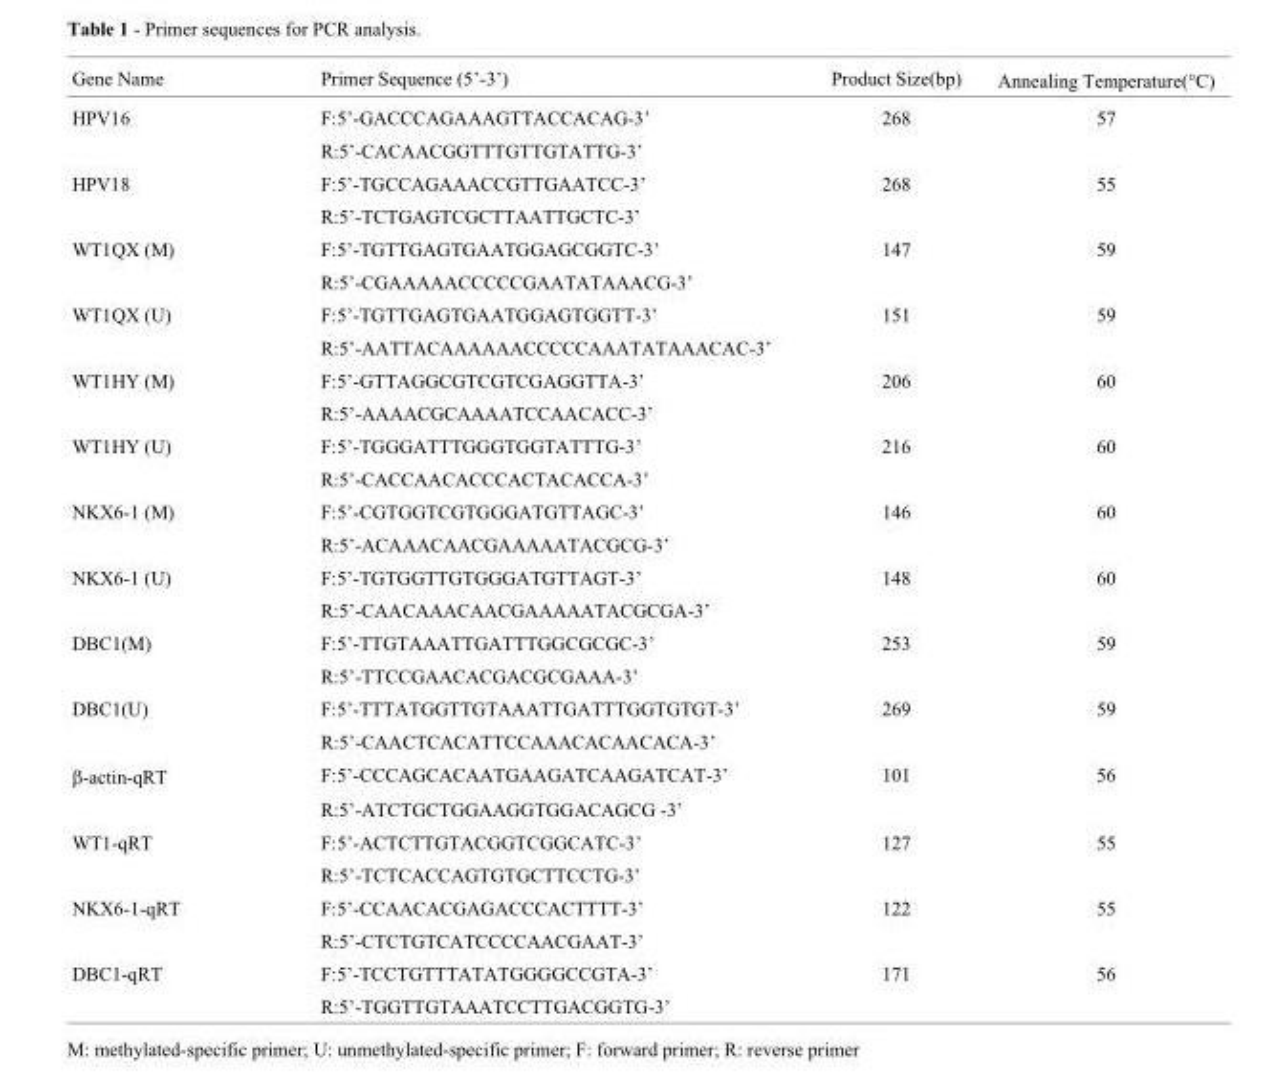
<table><thead><tr><td>Gene Name</td><td>Primer Sequence (5’-3’)</td><td>Product Size(bp)</td><td>Annealing Temperature(°C)</td></tr></thead><tbody><tr><td rowspan="2">HPV16</td><td>F:5’-GACCCAGAAAGTTACCACAG-3’</td><td>268</td><td>57</td></tr><tr><td>R:5’-CACAACGGTTTGTTGTATTG-3’</td><td></td><td></td></tr><tr><td rowspan="2">HPV18</td><td>F:5’-TGCCAGAAACCGTTGAATCC-3’</td><td>268</td><td>55</td></tr><tr><td>R:5’-TCTGAGTCGCTTAATTGCTC-3’</td><td></td><td></td></tr><tr><td rowspan="2">WT1QX (M)</td><td>F:5’-TGTTGAGTGAATGGAGCGGTC-3’</td><td>147</td><td>59</td></tr><tr><td>R:5’-CGAAAAACCCCCGAATATAAACG-3’</td><td></td><td></td></tr><tr><td rowspan="2">WT1QX (U)</td><td>F:5’-TGTTGAGTGAATGGAGTGGTT-3’</td><td>151</td><td>59</td></tr><tr><td>R:5’-AATTACAAAAAACCCCCAAATATAAACAC-3’</td><td></td><td></td></tr><tr><td rowspan="2">WT1HY (M)</td><td>F:5’-GTTAGGCGTCGTCGAGGTTA-3’</td><td>206</td><td>60</td></tr><tr><td>R:5’-AAAACGCAAAATCCAACACC-3’</td><td></td><td></td></tr><tr><td rowspan="2">WT1HY (U)</td><td>F:5’-TGGGATTTGGGTGGTATTTG-3’</td><td>216</td><td>60</td></tr><tr><td>R:5’-CACCAACACCCACTACACCA-3’</td><td></td><td></td></tr><tr><td rowspan="2">NKX6-1 (M)</td><td>F:5’-CGTGGTCGTGGGATGTTAGC-3’</td><td>146</td><td>60</td></tr><tr><td>R:5’-ACAAACAACGAAAAATACGCG-3’</td><td></td><td></td></tr><tr><td rowspan="2">NKX6-1 (U)</td><td>F:5’-TGTGGTTGTGGGATGTTAGT-3’</td><td>148</td><td>60</td></tr><tr><td>R:5’-CAACAAACAACGAAAAATACGCGA-3’</td><td></td><td></td></tr><tr><td rowspan="2">DBC1(M)</td><td>F:5’-TTGTAAATTGATTTGGCGCGC-3’</td><td>253</td><td>59</td></tr><tr><td>R:5’-TTCCGAACACGACGCGAAA-3’</td><td></td><td></td></tr><tr><td rowspan="2">DBC1(U)</td><td>F:5’-TTTATGGTTGTAAATTGATTTGGTGTGT-3’</td><td>269</td><td>59</td></tr><tr><td>R:5’-CAACTCACATTCCAAACACAACACA-3’</td><td></td><td></td></tr><tr><td rowspan="2">β-actin-qRT</td><td>F:5’-CCCAGCACAATGAAGATCAAGATCAT-3’</td><td>101</td><td>56</td></tr><tr><td>R:5’-ATCTGCTGGAAGGTGGACAGCG -3’</td><td></td><td></td></tr><tr><td rowspan="2">WT1-qRT</td><td>F:5’-ACTCTTGTACGGTCGGCATC-3’</td><td>127</td><td>55</td></tr><tr><td>R:5’-TCTCACCAGTGTGCTTCCTG-3’</td><td></td><td></td></tr><tr><td rowspan="2">NKX6-1-qRT</td><td>F:5’-CCAACACGAGACCCACTTTT-3’</td><td>122</td><td>55</td></tr><tr><td>R:5’-CTCTGTCATCCCCAACGAAT-3’</td><td></td><td></td></tr><tr><td rowspan="2">DBC1-qRT</td><td>F:5’-TCCTGTTTATATGGGGCCGTA-3’</td><td>171</td><td>56</td></tr><tr><td>R:5’-TGGTTGTAAATCCTTGACGGTG-3’</td><td></td><td></td></tr></tbody></table>